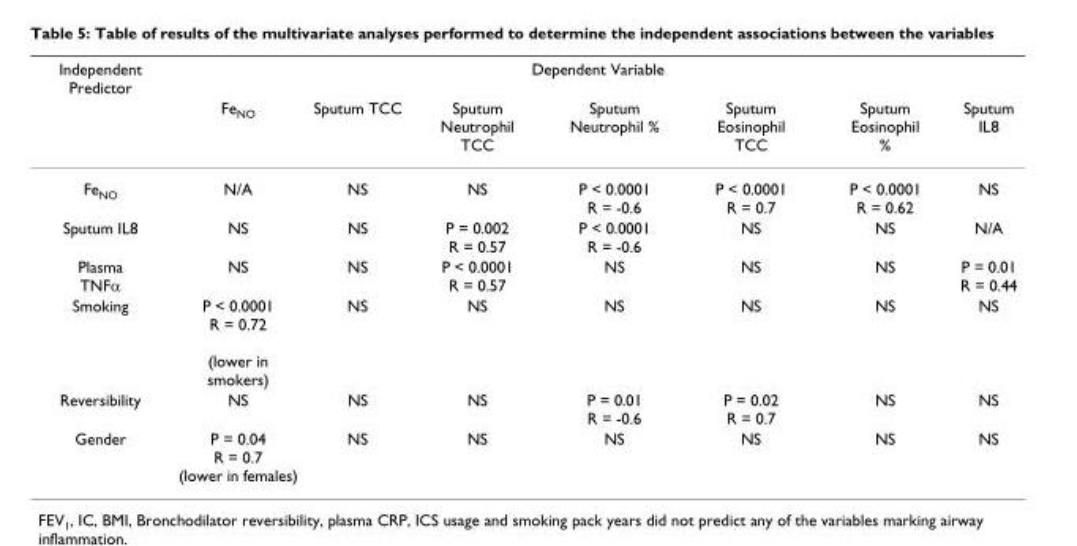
<table><thead><tr><td rowspan="2">Independent Predictor</td><td colspan="7">Dependent Variable</td></tr><tr><td>Fe<sub>NO</sub></td><td>Sputum TCC</td><td>Sputum Neutrophil TCC</td><td>Sputum Neutrophil %</td><td>Sputum Eosinophil TCC</td><td>Sputum Eosinophil %</td><td>Sputum IL8</td></tr></thead><tbody><tr><td>Fe<sub>NO</sub></td><td>N/A</td><td>NS</td><td>NS</td><td>P &lt; 0.0001 R = -0.6</td><td>P &lt; 0.0001 R = 0.7</td><td>P &lt; 0.0001 R = 0.62</td><td>NS</td></tr><tr><td>Sputum IL8</td><td>NS</td><td>NS</td><td>P = 0.002 R = 0.57</td><td>P &lt; 0.0001 R = -0.6</td><td>NS</td><td>NS</td><td>N/A</td></tr><tr><td>Plasma TNFα</td><td>NS</td><td>NS</td><td>P &lt; 0.0001 R = 0.57</td><td>NS</td><td>NS</td><td>NS</td><td>P = 0.01 R = 0.44</td></tr><tr><td>Smoking</td><td>P &lt; 0.0001 R = 0.72 (lower in smokers)</td><td>NS</td><td>NS</td><td>NS</td><td>NS</td><td>NS</td><td>NS</td></tr><tr><td>Reversibility</td><td>NS</td><td>NS</td><td>NS</td><td>P = 0.01 R = -0.6</td><td>P = 0.02 R = 0.7</td><td>NS</td><td>NS</td></tr><tr><td>Gender</td><td>P = 0.04 R = 0.7 (lower in females)</td><td>NS</td><td>NS</td><td>NS</td><td>NS</td><td>NS</td><td>NS</td></tr></tbody></table>